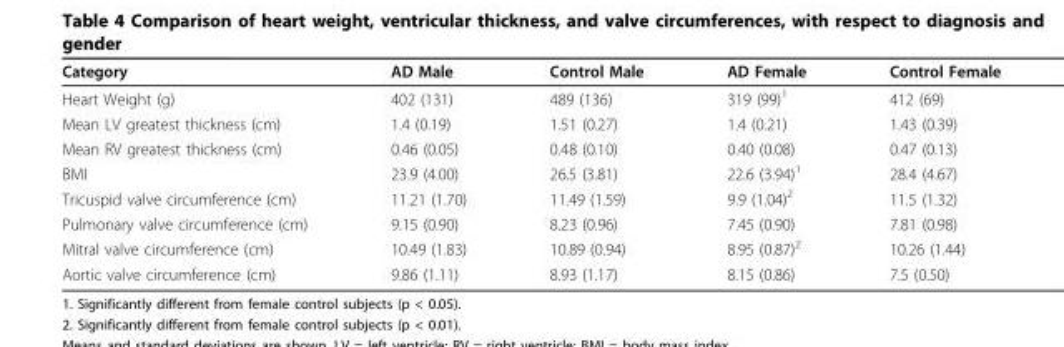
<table><thead><tr><td>Category</td><td>AD Male</td><td>Control Male</td><td>AD Female</td><td>Control Female</td></tr></thead><tbody><tr><td>Heart Weight (g)</td><td>402 (131)</td><td>489 (136)</td><td>319 (99)<sup>1</sup></td><td>412 (69)</td></tr><tr><td>Mean LV greatest thickness (cm)</td><td>1.4 (0.19)</td><td>1.51 (0.27)</td><td>1.4 (0.21)</td><td>1.43 (0.39)</td></tr><tr><td>Mean RV greatest thickness (cm)</td><td>0.46 (0.05)</td><td>0.48 (0.10)</td><td>0.40 (0.08)</td><td>0.47 (0.13)</td></tr><tr><td>BMI</td><td>23.9 (4.00)</td><td>26.5 (3.81)</td><td>22.6 (3.94)<sup>1</sup></td><td>28.4 (4.67)</td></tr><tr><td>Tricuspid valve circumference (cm)</td><td>11.21 (1.70)</td><td>11.49 (1.59)</td><td>9.9 (1.04)<sup>2</sup></td><td>11.5 (1.32)</td></tr><tr><td>Pulmonary valve circumference (cm)</td><td>9.15 (0.90)</td><td>8.23 (0.96)</td><td>7.45 (0.90)</td><td>7.81 (0.98)</td></tr><tr><td>Mitral valve circumference (cm)</td><td>10.49 (1.83)</td><td>10.89 (0.94)</td><td>8.95 (0.87)<sup>2</sup></td><td>10.26 (1.44)</td></tr><tr><td>Aortic valve circumference (cm)</td><td>9.86 (1.11)</td><td>8.93 (1.17)</td><td>8.15 (0.86)</td><td>7.5 (0.50)</td></tr></tbody></table>